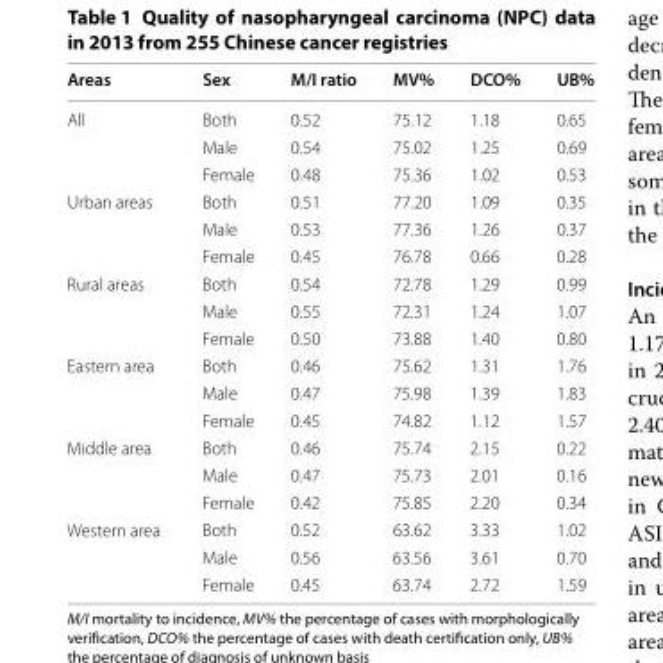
<table><thead><tr><td>Areas</td><td>Sex</td><td>M/I ratio</td><td>MV%</td><td>DCO%</td><td>UB%</td></tr></thead><tbody><tr><td rowspan="3">All</td><td>Both</td><td>0.52</td><td>75.12</td><td>1.18</td><td>0.65</td></tr><tr><td>Male</td><td>0.54</td><td>75.02</td><td>1.25</td><td>0.69</td></tr><tr><td>Female</td><td>0.48</td><td>75.36</td><td>1.02</td><td>0.53</td></tr><tr><td rowspan="3">Urban areas</td><td>Both</td><td>0.51</td><td>77.20</td><td>1.09</td><td>0.35</td></tr><tr><td>Male</td><td>0.53</td><td>77.36</td><td>1.26</td><td>0.37</td></tr><tr><td>Female</td><td>0.45</td><td>76.78</td><td>0.66</td><td>0.28</td></tr><tr><td rowspan="3">Rural areas</td><td>Both</td><td>0.54</td><td>72.78</td><td>1.29</td><td>0.99</td></tr><tr><td>Male</td><td>0.55</td><td>72.31</td><td>1.24</td><td>1.07</td></tr><tr><td>Female</td><td>0.50</td><td>73.88</td><td>1.40</td><td>0.80</td></tr><tr><td rowspan="3">Eastern area</td><td>Both</td><td>0.46</td><td>75.62</td><td>1.31</td><td>1.76</td></tr><tr><td>Male</td><td>0.47</td><td>75.98</td><td>1.39</td><td>1.83</td></tr><tr><td>Female</td><td>0.45</td><td>74.82</td><td>1.12</td><td>1.57</td></tr><tr><td rowspan="3">Middle area</td><td>Both</td><td>0.46</td><td>75.74</td><td>2.15</td><td>0.22</td></tr><tr><td>Male</td><td>0.47</td><td>75.73</td><td>2.01</td><td>0.16</td></tr><tr><td>Female</td><td>0.42</td><td>75.85</td><td>2.20</td><td>0.34</td></tr><tr><td rowspan="3">Western area</td><td>Both</td><td>0.52</td><td>63.62</td><td>3.33</td><td>1.02</td></tr><tr><td>Male</td><td>0.56</td><td>63.56</td><td>3.61</td><td>0.70</td></tr><tr><td>Female</td><td>0.45</td><td>63.74</td><td>2.72</td><td>1.59</td></tr></tbody></table>